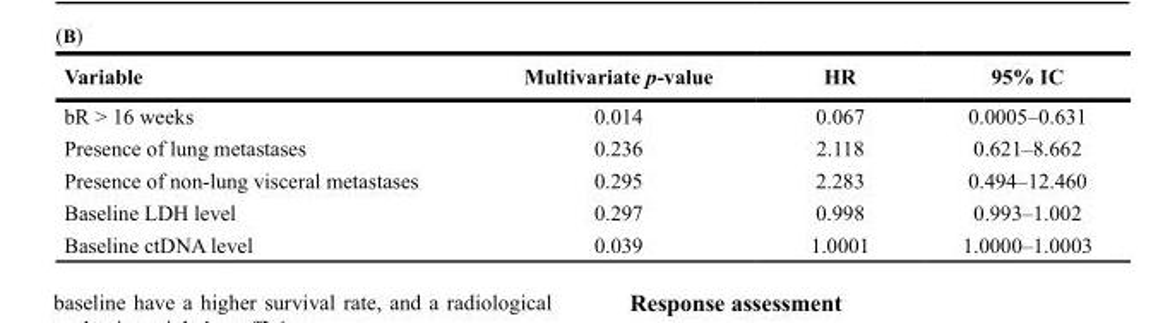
<table><thead><tr><td>Variable</td><td>Multivariate p-value</td><td>HR</td><td>95% IC</td></tr></thead><tbody><tr><td>bR &gt; 16 weeks</td><td>0.014</td><td>0.067</td><td>0.0005–0.631</td></tr><tr><td>Presence of lung metastases</td><td>0.236</td><td>2.118</td><td>0.621–8.662</td></tr><tr><td>Presence of non-lung visceral metastases</td><td>0.295</td><td>2.283</td><td>0.494–12.460</td></tr><tr><td>Baseline LDH level</td><td>0.297</td><td>0.998</td><td>0.993–1.002</td></tr><tr><td>Baseline ctDNA level</td><td>0.039</td><td>1.0001</td><td>1.0000–1.0003</td></tr></tbody></table>